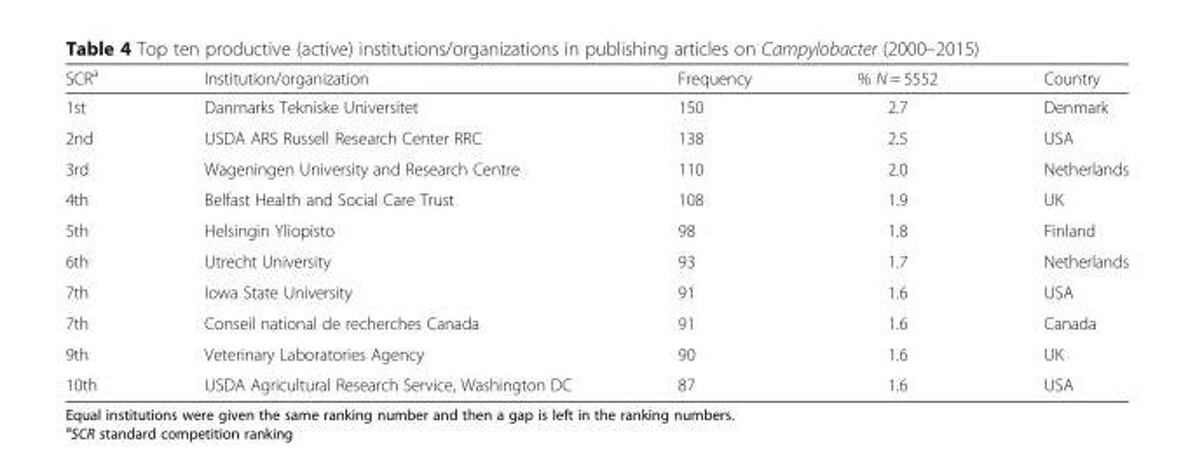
<table><thead><tr><td>SCR<sup>a</sup></td><td>Institution/organization</td><td>Frequency</td><td>% N = 5552</td><td>Country</td></tr></thead><tbody><tr><td>1st</td><td>Danmarks Tekniske Universitet</td><td>150</td><td>2.7</td><td>Denmark</td></tr><tr><td>2nd</td><td>USDA ARS Russell Research Center RRC</td><td>138</td><td>2.5</td><td>USA</td></tr><tr><td>3rd</td><td>Wageningen University and Research Centre</td><td>110</td><td>2.0</td><td>Netherlands</td></tr><tr><td>4th</td><td>Belfast Health and Social Care Trust</td><td>108</td><td>1.9</td><td>UK</td></tr><tr><td>5th</td><td>Helsingin Yliopisto</td><td>98</td><td>1.8</td><td>Finland</td></tr><tr><td>6th</td><td>Utrecht University</td><td>93</td><td>1.7</td><td>Netherlands</td></tr><tr><td>7th</td><td>Iowa State University</td><td>91</td><td>1.6</td><td>USA</td></tr><tr><td>7th</td><td>Conseil national de recherches Canada</td><td>91</td><td>1.6</td><td>Canada</td></tr><tr><td>9th</td><td>Veterinary Laboratories Agency</td><td>90</td><td>1.6</td><td>UK</td></tr><tr><td>10th</td><td>USDA Agricultural Research Service, Washington DC</td><td>87</td><td>1.6</td><td>USA</td></tr></tbody></table>